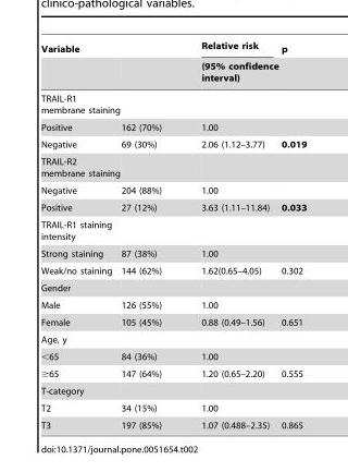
<table><thead><tr><td rowspan="2">Variable</td><td rowspan="2"></td><td rowspan="2">Relative risk (95% confidence interval)</td><td rowspan="2">p</td></tr><tr></tr></thead><tbody><tr><td colspan="4">TRAIL-R1 membrane staining</td></tr><tr><td>Positive</td><td>162 (70%)</td><td>1.00</td><td></td></tr><tr><td>Negative</td><td>69 (30%)</td><td>2.06 (1.12–3.77)</td><td>0.019</td></tr><tr><td colspan="4">TRAIL-R2 membrane staining</td></tr><tr><td>Negative</td><td>204 (88%)</td><td>1.00</td><td></td></tr><tr><td>Positive</td><td>27 (12%)</td><td>3.63 (1.11–11.84)</td><td>0.033</td></tr><tr><td colspan="4">TRAIL-R1 staining intensity</td></tr><tr><td>Strong staining</td><td>87 (38%)</td><td>1.00</td><td></td></tr><tr><td>Weak/no staining</td><td>144 (62%)</td><td>1.62(0.65–4.05)</td><td>0.302</td></tr><tr><td colspan="4">Gender</td></tr><tr><td>Male</td><td>126 (55%)</td><td>1.00</td><td></td></tr><tr><td>Female</td><td>105 (45%)</td><td>0.88 (0.49–1.56)</td><td>0.651</td></tr><tr><td colspan="4">Age, y</td></tr><tr><td>&lt;65</td><td>84 (36%)</td><td>1.00</td><td></td></tr><tr><td>≥65</td><td>147 (64%)</td><td>1.20 (0.65–2.20)</td><td>0.555</td></tr><tr><td colspan="4">T-category</td></tr><tr><td>T2</td><td>34 (15%)</td><td>1.00</td><td></td></tr><tr><td>T3</td><td>197 (85%)</td><td>1.07 (0.488–2.35)</td><td>0.865</td></tr></tbody></table>